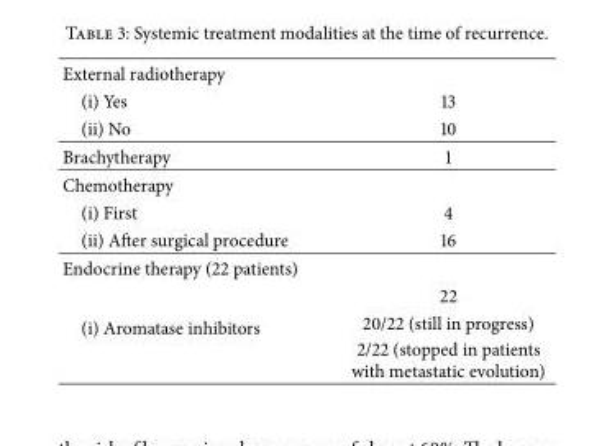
<table><tbody><tr><td colspan="2">External radiotherapy</td></tr><tr><td>(i) Yes</td><td>13</td></tr><tr><td>(ii) No</td><td>10</td></tr><tr><td>Brachytherapy</td><td>1</td></tr><tr><td colspan="2">Chemotherapy</td></tr><tr><td>(i) First</td><td>4</td></tr><tr><td>(ii) After surgical procedure</td><td>16</td></tr><tr><td colspan="2">Endocrine therapy (22 patients)</td></tr><tr><td rowspan="3">(i) Aromatase inhibitors</td><td>22</td></tr><tr><td>20/22 (still in progress)</td></tr><tr><td>2/22 (stopped in patients with metastatic evolution)</td></tr></tbody></table>